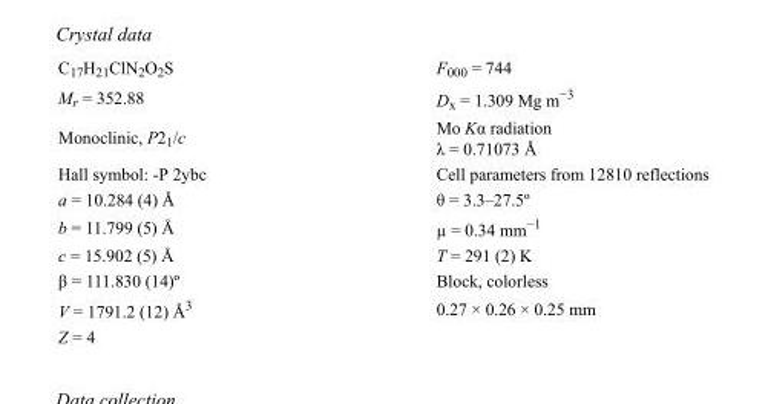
<table><tbody><tr><td>C<sub>17</sub>H<sub>21</sub>ClN<sub>2</sub>O<sub>2</sub>S</td><td>F<sub>000</sub> = 744</td></tr><tr><td>M<sub>r</sub> = 352.88</td><td>D<sub>x</sub> = 1.309 Mg m<sup>−3</sup></td></tr><tr><td>Monoclinic, P2<sub>1</sub>/c</td><td>Mo Kα radiation λ = 0.71073 Å</td></tr><tr><td>Hall symbol: -P 2ybc</td><td>Cell parameters from 12810 reflections</td></tr><tr><td>a = 10.284 (4) Å</td><td>θ = 3.3–27.5º</td></tr><tr><td>b = 11.799 (5) Å</td><td>µ = 0.34 mm<sup>−1</sup></td></tr><tr><td>c = 15.902 (5) Å</td><td>T = 291 (2) K</td></tr><tr><td>β = 111.830 (14)º</td><td>Block, colorless</td></tr><tr><td>V = 1791.2 (12) Å<sup>3</sup></td><td>0.27 × 0.26 × 0.25 mm</td></tr><tr><td>Z = 4</td><td></td></tr></tbody></table>